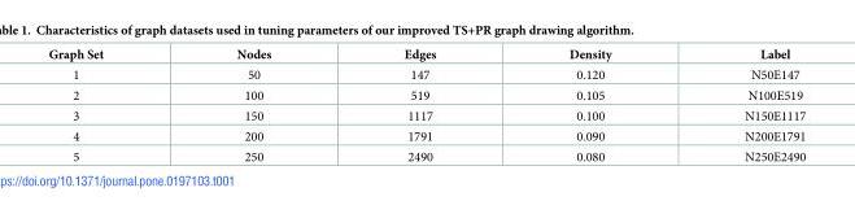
<table><thead><tr><td>Graph Set</td><td>Nodes</td><td>Edges</td><td>Density</td><td>Label</td></tr></thead><tbody><tr><td>1</td><td>50</td><td>147</td><td>0.120</td><td>N50E147</td></tr><tr><td>2</td><td>100</td><td>519</td><td>0.105</td><td>N100E519</td></tr><tr><td>3</td><td>150</td><td>1117</td><td>0.100</td><td>N150E1117</td></tr><tr><td>4</td><td>200</td><td>1791</td><td>0.090</td><td>N200E1791</td></tr><tr><td>5</td><td>250</td><td>2490</td><td>0.080</td><td>N250E2490</td></tr></tbody></table>